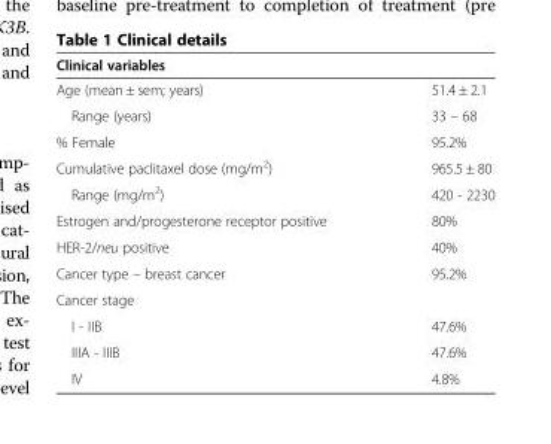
<table><thead><tr><td>Clinical variables</td><td></td></tr></thead><tbody><tr><td>Age (mean ± sem; years)</td><td>51.4 ± 2.1</td></tr><tr><td>Range (years)</td><td>33 – 68</td></tr><tr><td>% Female</td><td>95.2%</td></tr><tr><td>Cumulative paclitaxel dose (mg/m<sup>2</sup>)</td><td>965.5 ± 80</td></tr><tr><td>Range (mg/m<sup>2</sup>)</td><td>420 - 2230</td></tr><tr><td>Estrogen and/progesterone receptor positive</td><td>80%</td></tr><tr><td>HER-2/neu positive</td><td>40%</td></tr><tr><td>Cancer type – breast cancer</td><td>95.2%</td></tr><tr><td colspan="2">Cancer stage</td></tr><tr><td>I - IIB</td><td>47.6%</td></tr><tr><td>IIIA - IIIB</td><td>47.6%</td></tr><tr><td>IV</td><td>4.8%</td></tr></tbody></table>